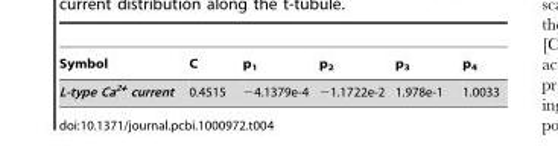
<table><thead><tr><td>Symbol</td><td>C</td><td>p<sub>1</sub></td><td>p<sub>2</sub></td><td>p<sub>3</sub></td><td>p<sub>4</sub></td></tr></thead><tbody><tr><td>L-type Ca<sup>2+</sup> current</td><td>0.4515</td><td>−4.1379e-4</td><td>−1.1722e-2</td><td>1.978e-1</td><td>1.0033</td></tr></tbody></table>